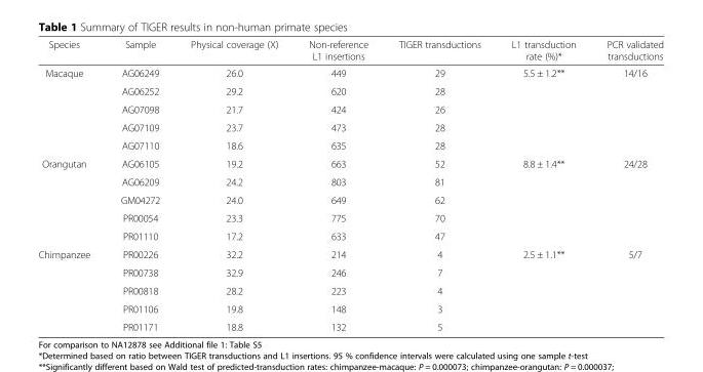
<table><thead><tr><td>Species</td><td>Sample</td><td>Physical coverage (X)</td><td>Non-reference L1 insertions</td><td>TIGER transductions</td><td>L1 transduction rate (%)*</td><td>PCR validated transductions</td></tr></thead><tbody><tr><td rowspan="5">Macaque</td><td>AG06249</td><td>26.0</td><td>449</td><td>29</td><td>5.5 ± 1.2**</td><td>14/16</td></tr><tr><td>AG06252</td><td>29.2</td><td>620</td><td>28</td><td></td><td></td></tr><tr><td>AG07098</td><td>21.7</td><td>424</td><td>26</td><td></td><td></td></tr><tr><td>AG07109</td><td>23.7</td><td>473</td><td>28</td><td></td><td></td></tr><tr><td>AG07110</td><td>18.6</td><td>635</td><td>28</td><td></td><td></td></tr><tr><td rowspan="5">Orangutan</td><td>AG06105</td><td>19.2</td><td>663</td><td>52</td><td>8.8 ± 1.4**</td><td>24/28</td></tr><tr><td>AG06209</td><td>24.2</td><td>803</td><td>81</td><td></td><td></td></tr><tr><td>GM04272</td><td>24.0</td><td>649</td><td>62</td><td></td><td></td></tr><tr><td>PR00054</td><td>23.3</td><td>775</td><td>70</td><td></td><td></td></tr><tr><td>PR01110</td><td>17.2</td><td>633</td><td>47</td><td></td><td></td></tr><tr><td rowspan="5">Chimpanzee</td><td>PR00226</td><td>32.2</td><td>214</td><td>4</td><td>2.5 ± 1.1**</td><td>5/7</td></tr><tr><td>PR00738</td><td>32.9</td><td>246</td><td>7</td><td></td><td></td></tr><tr><td>PR00818</td><td>28.2</td><td>223</td><td>4</td><td></td><td></td></tr><tr><td>PR01106</td><td>19.8</td><td>148</td><td>3</td><td></td><td></td></tr><tr><td>PR01171</td><td>18.8</td><td>132</td><td>5</td><td></td><td></td></tr></tbody></table>